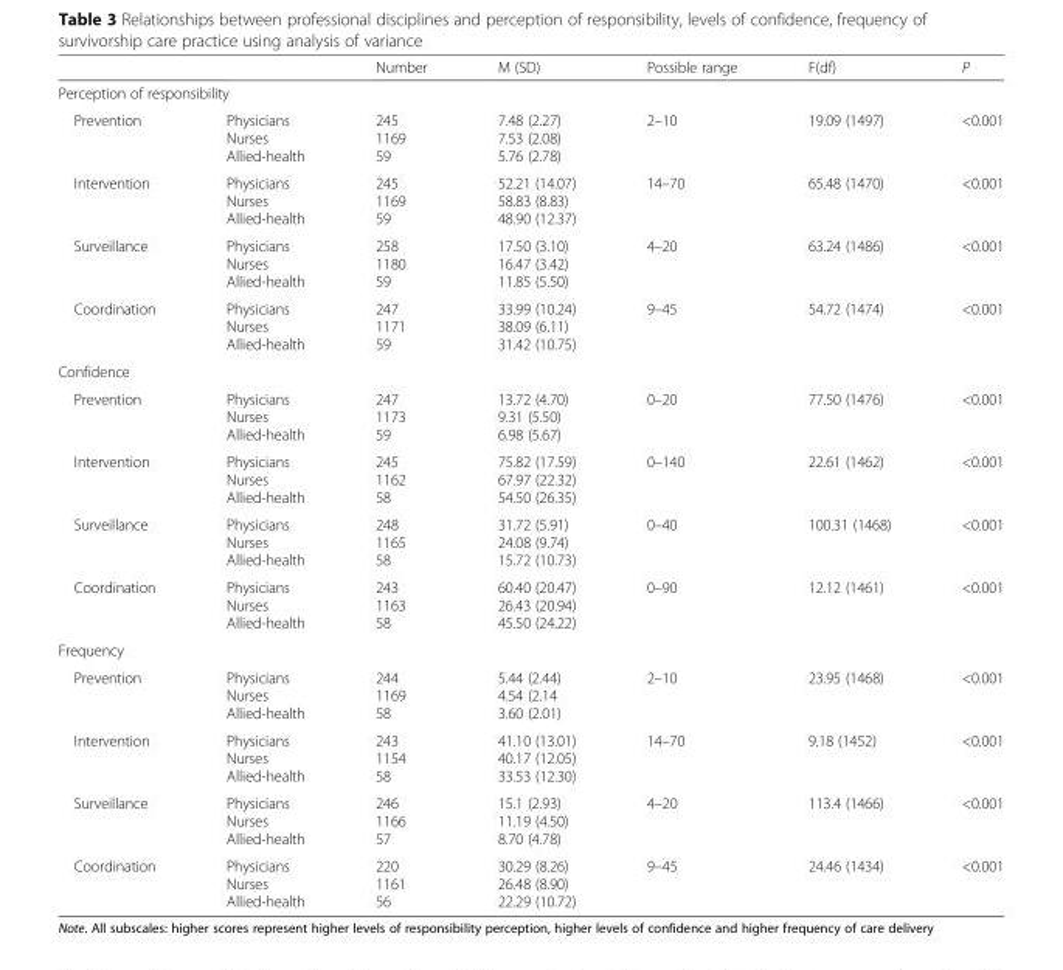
<table><thead><tr><td></td><td></td><td>Number</td><td>M (SD)</td><td>Possible range</td><td>F(df)</td><td>P</td></tr></thead><tbody><tr><td colspan="7">Perception of responsibility</td></tr><tr><td>Prevention</td><td>Physicians Nurses Allied-health</td><td>245 1169 59</td><td>7.48 (2.27) 7.53 (2.08) 5.76 (2.78)</td><td>2–10</td><td>19.09 (1497)</td><td>&lt;0.001</td></tr><tr><td>Intervention</td><td>Physicians Nurses Allied-health</td><td>245 1169 59</td><td>52.21 (14.07) 58.83 (8.83) 48.90 (12.37)</td><td>14–70</td><td>65.48 (1470)</td><td>&lt;0.001</td></tr><tr><td>Surveillance</td><td>Physicians Nurses Allied-health</td><td>258 1180 59</td><td>17.50 (3.10) 16.47 (3.42) 11.85 (5.50)</td><td>4–20</td><td>63.24 (1486)</td><td>&lt;0.001</td></tr><tr><td>Coordination</td><td>Physicians Nurses Allied-health</td><td>247 1171 59</td><td>33.99 (10.24) 38.09 (6.11) 31.42 (10.75)</td><td>9–45</td><td>54.72 (1474)</td><td>&lt;0.001</td></tr><tr><td colspan="7">Confidence</td></tr><tr><td>Prevention</td><td>Physicians Nurses Allied-health</td><td>247 1173 59</td><td>13.72 (4.70) 9.31 (5.50) 6.98 (5.67)</td><td>0–20</td><td>77.50 (1476)</td><td>&lt;0.001</td></tr><tr><td>Intervention</td><td>Physicians Nurses Allied-health</td><td>245 1162 58</td><td>75.82 (17.59) 67.97 (22.32) 54.50 (26.35)</td><td>0–140</td><td>22.61 (1462)</td><td>&lt;0.001</td></tr><tr><td>Surveillance</td><td>Physicians Nurses Allied-health</td><td>248 1165 58</td><td>31.72 (5.91) 24.08 (9.74) 15.72 (10.73)</td><td>0–40</td><td>100.31 (1468)</td><td>&lt;0.001</td></tr><tr><td>Coordination</td><td>Physicians Nurses Allied-health</td><td>243 1163 58</td><td>60.40 (20.47) 26.43 (20.94) 45.50 (24.22)</td><td>0–90</td><td>12.12 (1461)</td><td>&lt;0.001</td></tr><tr><td colspan="7">Frequency</td></tr><tr><td>Prevention</td><td>Physicians Nurses Allied-health</td><td>244 1169 58</td><td>5.44 (2.44) 4.54 (2.14 3.60 (2.01)</td><td>2–10</td><td>23.95 (1468)</td><td>&lt;0.001</td></tr><tr><td>Intervention</td><td>Physicians Nurses Allied-health</td><td>243 1154 58</td><td>41.10 (13.01) 40.17 (12.05) 33.53 (12.30)</td><td>14–70</td><td>9.18 (1452)</td><td>&lt;0.001</td></tr><tr><td>Surveillance</td><td>Physicians Nurses Allied-health</td><td>246 1166 57</td><td>15.1 (2.93) 11.19 (4.50) 8.70 (4.78)</td><td>4–20</td><td>113.4 (1466)</td><td>&lt;0.001</td></tr><tr><td>Coordination</td><td>Physicians Nurses Allied-health</td><td>220 1161 56</td><td>30.29 (8.26) 26.48 (8.90) 22.29 (10.72)</td><td>9–45</td><td>24.46 (1434)</td><td>&lt;0.001</td></tr></tbody></table>